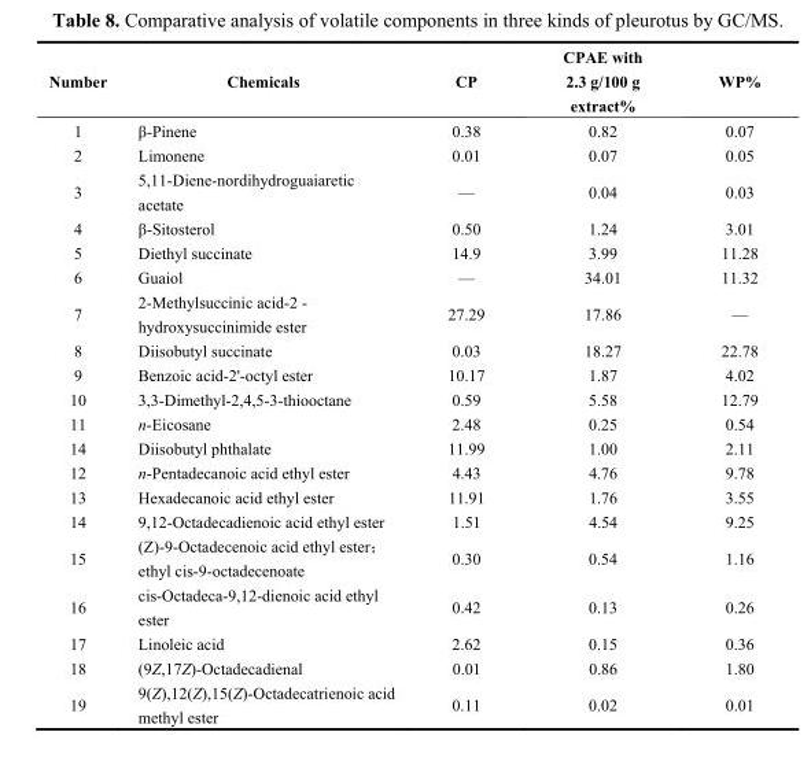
<table><thead><tr><td>Number</td><td>Chemicals</td><td>CP</td><td>CPAE with 2.3 g/100 g extract%</td><td>WP%</td></tr></thead><tbody><tr><td>1</td><td>β-Pinene</td><td>0.38</td><td>0.82</td><td>0.07</td></tr><tr><td>2</td><td>Limonene</td><td>0.01</td><td>0.07</td><td>0.05</td></tr><tr><td>3</td><td>5,11-Diene-nordihydroguaiaretic acetate</td><td>—</td><td>0.04</td><td>0.03</td></tr><tr><td>4</td><td>β-Sitosterol</td><td>0.50</td><td>1.24</td><td>3.01</td></tr><tr><td>5</td><td>Diethyl succinate</td><td>14.9</td><td>3.99</td><td>11.28</td></tr><tr><td>6</td><td>Guaiol</td><td>—</td><td>34.01</td><td>11.32</td></tr><tr><td>7</td><td>2-Methylsuccinic acid-2 - hydroxysuccinimide ester</td><td>27.29</td><td>17.86</td><td>—</td></tr><tr><td>8</td><td>Diisobutyl succinate</td><td>0.03</td><td>18.27</td><td>22.78</td></tr><tr><td>9</td><td>Benzoic acid-2&#x27;-octyl ester</td><td>10.17</td><td>1.87</td><td>4.02</td></tr><tr><td>10</td><td>3,3-Dimethyl-2,4,5-3-thiooctane</td><td>0.59</td><td>5.58</td><td>12.79</td></tr><tr><td>11</td><td>n-Eicosane</td><td>2.48</td><td>0.25</td><td>0.54</td></tr><tr><td>14</td><td>Diisobutyl phthalate</td><td>11.99</td><td>1.00</td><td>2.11</td></tr><tr><td>12</td><td>n-Pentadecanoic acid ethyl ester</td><td>4.43</td><td>4.76</td><td>9.78</td></tr><tr><td>13</td><td>Hexadecanoic acid ethyl ester</td><td>11.91</td><td>1.76</td><td>3.55</td></tr><tr><td>14</td><td>9,12-Octadecadienoic acid ethyl ester</td><td>1.51</td><td>4.54</td><td>9.25</td></tr><tr><td>15</td><td>(Z)-9-Octadecenoic acid ethyl ester； ethyl cis-9-octadecenoate</td><td>0.30</td><td>0.54</td><td>1.16</td></tr><tr><td>16</td><td>cis-Octadeca-9,12-dienoic acid ethyl ester</td><td>0.42</td><td>0.13</td><td>0.26</td></tr><tr><td>17</td><td>Linoleic acid</td><td>2.62</td><td>0.15</td><td>0.36</td></tr><tr><td>18</td><td>(9Z,17Z)-Octadecadienal</td><td>0.01</td><td>0.86</td><td>1.80</td></tr><tr><td>19</td><td>9(Z),12(Z),15(Z)-Octadecatrienoic acid methyl ester</td><td>0.11</td><td>0.02</td><td>0.01</td></tr></tbody></table>